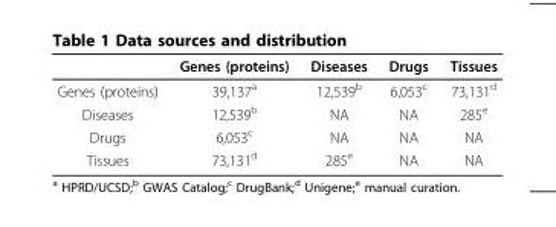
<table><thead><tr><td></td><td>Genes (proteins)</td><td>Diseases</td><td>Drugs</td><td>Tissues</td></tr></thead><tbody><tr><td>Genes (proteins)</td><td>39,137<sup>a</sup></td><td>12,539<sup>b</sup></td><td>6,053<sup>c</sup></td><td>73,131<sup>d</sup></td></tr><tr><td>Diseases</td><td>12,539<sup>b</sup></td><td>NA</td><td>NA</td><td>285<sup>e</sup></td></tr><tr><td>Drugs</td><td>6,053<sup>c</sup></td><td>NA</td><td>NA</td><td>NA</td></tr><tr><td>Tissues</td><td>73,131<sup>d</sup></td><td>285<sup>e</sup></td><td>NA</td><td>NA</td></tr></tbody></table>